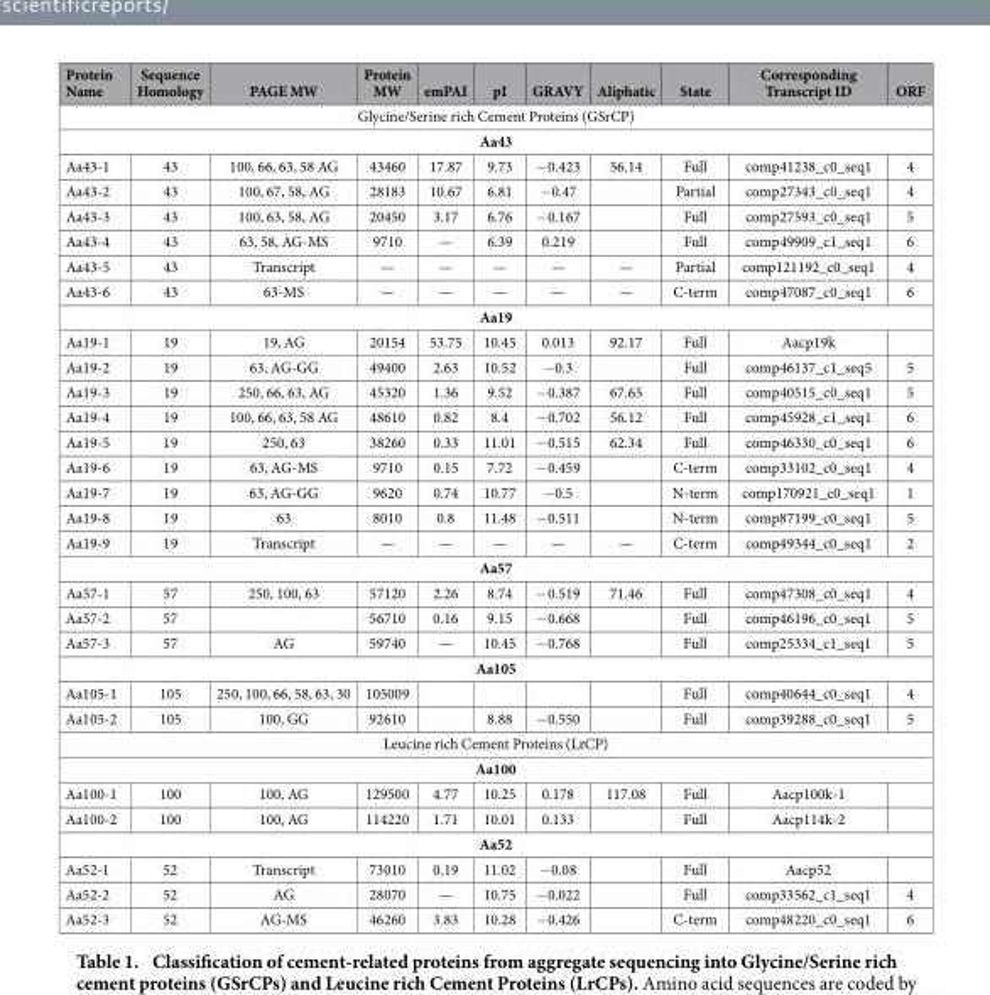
<table><thead><tr><td>Protein Name</td><td>Sequence Homology</td><td>PAGE MW</td><td>Protein MW</td><td>emPAI</td><td>pI</td><td>GRAVY</td><td>Aliphatic</td><td>State</td><td>Corresponding Transcript ID</td><td>ORF</td></tr></thead><tbody><tr><td colspan="11">Glycine/Serine rich Cement Proteins (GSrCP)</td></tr><tr><td colspan="11">Aa43</td></tr><tr><td>Aa43-1</td><td>43</td><td>100, 66, 63, 58 AG</td><td>43460</td><td>17.87</td><td>9.73</td><td>− 0.423</td><td>56.14</td><td>Full</td><td>comp41238_c0_seq1</td><td>4</td></tr><tr><td>Aa43-2</td><td>43</td><td>100, 67, 58, AG</td><td>28183</td><td>10.67</td><td>6.81</td><td>− 0.47</td><td></td><td>Partial</td><td>comp27343_c0_seq1</td><td>4</td></tr><tr><td>Aa43-3</td><td>43</td><td>100, 63, 58, AG</td><td>20450</td><td>3.17</td><td>6.76</td><td>− 0.167</td><td></td><td>Full</td><td>comp27593_c0_seq1</td><td>5</td></tr><tr><td>Aa43-4</td><td>43</td><td>63, 58, AG-MS</td><td>9710</td><td>—</td><td>6.39</td><td>0.219</td><td></td><td>Full</td><td>comp49909_c1_seq1</td><td>6</td></tr><tr><td>Aa43-5</td><td>43</td><td>Transcript</td><td>—</td><td>—</td><td>—</td><td>—</td><td>—</td><td>Partial</td><td>comp121192_c0_seq1</td><td>4</td></tr><tr><td>Aa43-6</td><td>43</td><td>63-MS</td><td>—</td><td>—</td><td>—</td><td>—</td><td>—</td><td>C-term</td><td>comp47087_c0_seq1</td><td>6</td></tr><tr><td colspan="11">Aa19</td></tr><tr><td>Aa19-1</td><td>19</td><td>19, AG</td><td>20154</td><td>53.75</td><td>10.45</td><td>0.013</td><td>92.17</td><td>Full</td><td>Aacp19k</td><td></td></tr><tr><td>Aa19-2</td><td>19</td><td>63, AG-GG</td><td>49400</td><td>2.63</td><td>10.52</td><td>− 0.3</td><td></td><td>Full</td><td>comp46137_c1_seq5</td><td>5</td></tr><tr><td>Aa19-3</td><td>19</td><td>250, 66, 63, AG</td><td>45320</td><td>1.36</td><td>9.52</td><td>− 0.387</td><td>67.65</td><td>Full</td><td>comp40515_c0_seq1</td><td>5</td></tr><tr><td>Aa19-4</td><td>19</td><td>100, 66, 63, 58 AG</td><td>48610</td><td>0.82</td><td>8.4</td><td>− 0.702</td><td>56.12</td><td>Full</td><td>comp45928_c1_seq1</td><td>6</td></tr><tr><td>Aa19-5</td><td>19</td><td>250, 63</td><td>38260</td><td>0.33</td><td>11.01</td><td>− 0.515</td><td>62.34</td><td>Full</td><td>comp46330_c0_seq1</td><td>6</td></tr><tr><td>Aa19-6</td><td>19</td><td>63, AG-MS</td><td>9710</td><td>0.15</td><td>7.72</td><td>− 0.459</td><td></td><td>C-term</td><td>comp33102_c0_seq1</td><td>4</td></tr><tr><td>Aa19-7</td><td>19</td><td>63, AG-GG</td><td>9620</td><td>0.74</td><td>10.77</td><td>− 0.5</td><td></td><td>N-term</td><td>comp170921_c0_seq1</td><td>1</td></tr><tr><td>Aa19-8</td><td>19</td><td>63</td><td>8010</td><td>0.8</td><td>11.48</td><td>− 0.511</td><td></td><td>N-term</td><td>comp87199_c0_seq1</td><td>5</td></tr><tr><td>Aa19-9</td><td>19</td><td>Transcript</td><td>—</td><td>—</td><td>—</td><td>—</td><td>—</td><td>C-term</td><td>comp49344_c0_seq1</td><td>2</td></tr><tr><td colspan="11">Aa57</td></tr><tr><td>Aa57-1</td><td>57</td><td>250, 100, 63</td><td>57120</td><td>2.26</td><td>8.74</td><td>− 0.519</td><td>71.46</td><td>Full</td><td>comp47308_c0_seq1</td><td>4</td></tr><tr><td>Aa57-2</td><td>57</td><td></td><td>56710</td><td>0.16</td><td>9.15</td><td>− 0.668</td><td></td><td>Full</td><td>comp46196_c0_seq1</td><td>5</td></tr><tr><td>Aa57-3</td><td>57</td><td>AG</td><td>59740</td><td>—</td><td>10.45</td><td>− 0.768</td><td></td><td>Full</td><td>comp25334_c1_seq1</td><td>5</td></tr><tr><td colspan="11">Aa105</td></tr><tr><td>Aa105-1</td><td>105</td><td>250, 100, 66, 58, 63, 30</td><td>105009</td><td></td><td></td><td></td><td></td><td>Full</td><td>comp40644_c0_seq1</td><td>4</td></tr><tr><td>Aa105-2</td><td>105</td><td>100, GG</td><td>92610</td><td></td><td>8.88</td><td>− 0.550</td><td></td><td>Full</td><td>comp39288_c0_seq1</td><td>5</td></tr><tr><td colspan="11">Leucine rich Cement Proteins (LrCP)</td></tr><tr><td colspan="11">Aa100</td></tr><tr><td>Aa100-1</td><td>100</td><td>100, AG</td><td>129500</td><td>4.77</td><td>10.25</td><td>0.178</td><td>117.08</td><td>Full</td><td>Aacp100k-1</td><td></td></tr><tr><td>Aa100-2</td><td>100</td><td>100, AG</td><td>114220</td><td>1.71</td><td>10.01</td><td>0.133</td><td></td><td>Full</td><td>Aacp114k-2</td><td></td></tr><tr><td colspan="11">Aa52</td></tr><tr><td>Aa52-1</td><td>52</td><td>Transcript</td><td>73010</td><td>0.19</td><td>11.02</td><td>− 0.08</td><td></td><td>Full</td><td>Aacp52</td><td></td></tr><tr><td>Aa52-2</td><td>52</td><td>AG</td><td>28070</td><td>—</td><td>10.75</td><td>− 0.022</td><td></td><td>Full</td><td>comp33562_c1_seq1</td><td>4</td></tr><tr><td>Aa52-3</td><td>52</td><td>AG-MS</td><td>46260</td><td>3.83</td><td>10.28</td><td>− 0.426</td><td></td><td>C-term</td><td>comp48220_c0_seq1</td><td>6</td></tr></tbody></table>